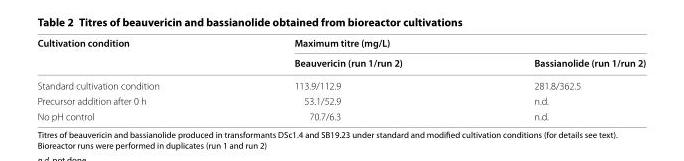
<table><thead><tr><td rowspan="2">Cultivation condition</td><td colspan="2">Maximum titre (mg/L)</td></tr><tr><td>Beauvericin (run 1/run 2)</td><td>Bassianolide (run 1/run 2)</td></tr></thead><tbody><tr><td>Standard cultivation condition</td><td>113.9/112.9</td><td>281.8/362.5</td></tr><tr><td>Precursor addition after 0 h</td><td>53.1/52.9</td><td>n.d.</td></tr><tr><td>No pH control</td><td>70.7/6.3</td><td>n.d.</td></tr></tbody></table>